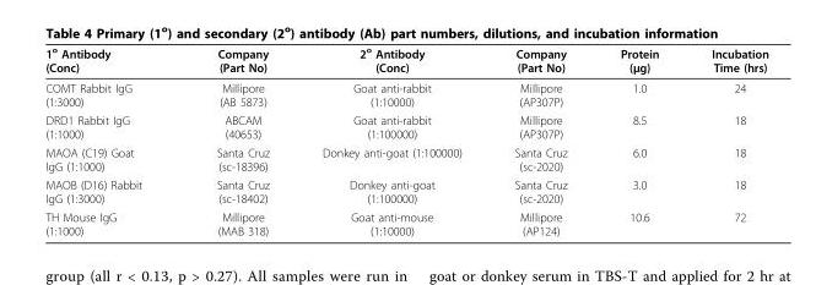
<table><thead><tr><td>1<sup>o</sup> Antibody (Conc)</td><td>Company (Part No)</td><td>2<sup>o</sup> Antibody (Conc)</td><td>Company (Part No)</td><td>Protein (μg)</td><td>Incubation Time (hrs)</td></tr></thead><tbody><tr><td>COMT Rabbit IgG (1:3000)</td><td>Millipore (AB 5873)</td><td>Goat anti-rabbit (1:10000)</td><td>Millipore (AP307P)</td><td>1.0</td><td>24</td></tr><tr><td>DRD1 Rabbit IgG (1:1000)</td><td>ABCAM (40653)</td><td>Goat anti-rabbit (1:100000)</td><td>Millipore (AP307P)</td><td>8.5</td><td>18</td></tr><tr><td>MAOA (C19) Goat IgG (1:1000)</td><td>Santa Cruz (sc-18396)</td><td>Donkey anti-goat (1:100000)</td><td>Santa Cruz (sc-2020)</td><td>6.0</td><td>18</td></tr><tr><td>MAOB (D16) Rabbit IgG (1:3000)</td><td>Santa Cruz (sc-18402)</td><td>Donkey anti-goat (1:100000)</td><td>Santa Cruz (sc-2020)</td><td>3.0</td><td>18</td></tr><tr><td>TH Mouse IgG (1:1000)</td><td>Millipore (MAB 318)</td><td>Goat anti-mouse (1:10000)</td><td>Millipore (AP124)</td><td>10.6</td><td>72</td></tr></tbody></table>